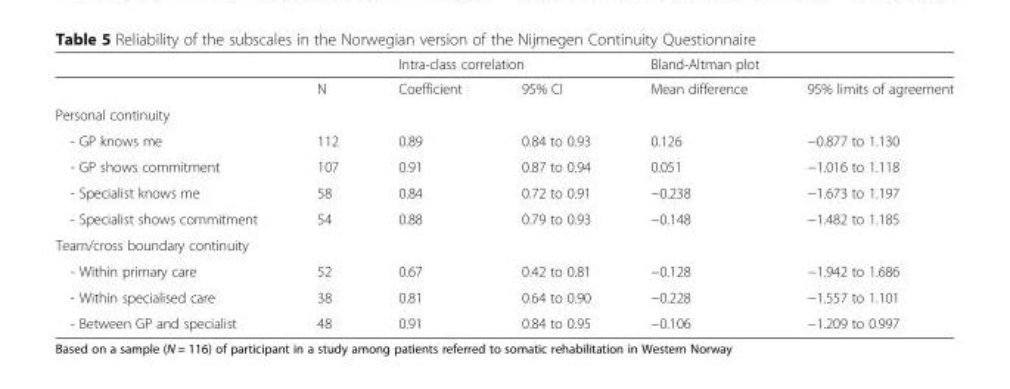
<table><thead><tr><td rowspan="2"></td><td rowspan="2">N</td><td colspan="2">Intra-class correlation</td><td colspan="2">Bland-Altman plot</td></tr><tr><td>Coefficient</td><td>95% CI</td><td>Mean difference</td><td>95% limits of agreement</td></tr></thead><tbody><tr><td colspan="6">Personal continuity</td></tr><tr><td>- GP knows me</td><td>112</td><td>0.89</td><td>0.84 to 0.93</td><td>0.126</td><td>−0.877 to 1.130</td></tr><tr><td>- GP shows commitment</td><td>107</td><td>0.91</td><td>0.87 to 0.94</td><td>0.051</td><td>−1.016 to 1.118</td></tr><tr><td>- Specialist knows me</td><td>58</td><td>0.84</td><td>0.72 to 0.91</td><td>−0.238</td><td>−1.673 to 1.197</td></tr><tr><td>- Specialist shows commitment</td><td>54</td><td>0.88</td><td>0.79 to 0.93</td><td>−0.148</td><td>−1.482 to 1.185</td></tr><tr><td colspan="6">Team/cross boundary continuity</td></tr><tr><td>- Within primary care</td><td>52</td><td>0.67</td><td>0.42 to 0.81</td><td>−0.128</td><td>−1.942 to 1.686</td></tr><tr><td>- Within specialised care</td><td>38</td><td>0.81</td><td>0.64 to 0.90</td><td>−0.228</td><td>−1.557 to 1.101</td></tr><tr><td>- Between GP and specialist</td><td>48</td><td>0.91</td><td>0.84 to 0.95</td><td>−0.106</td><td>−1.209 to 0.997</td></tr></tbody></table>